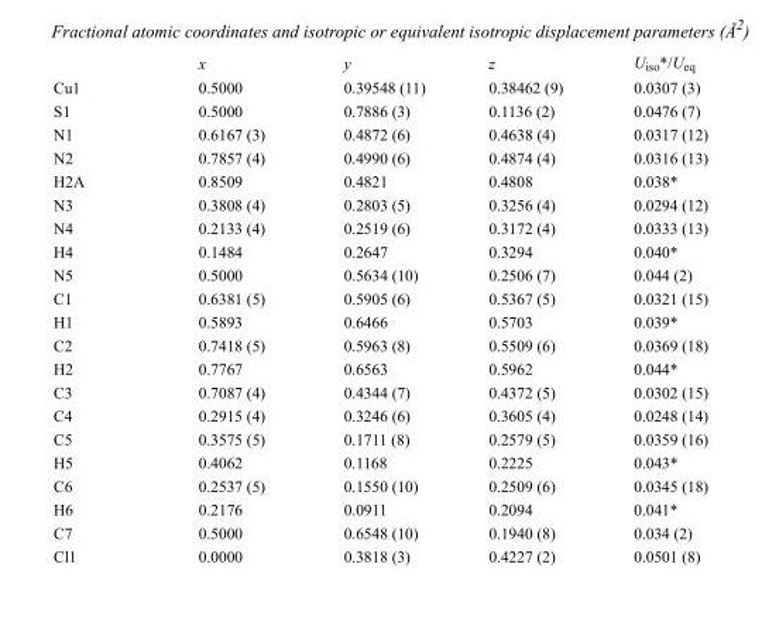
<table><thead><tr><td></td><td>x</td><td>y</td><td>z</td><td>U<sub>iso</sub>*/U<sub>eq</sub></td></tr></thead><tbody><tr><td>Cu1</td><td>0.5000</td><td>0.39548 (11)</td><td>0.38462 (9)</td><td>0.0307 (3)</td></tr><tr><td>S1</td><td>0.5000</td><td>0.7886 (3)</td><td>0.1136 (2)</td><td>0.0476 (7)</td></tr><tr><td>N1</td><td>0.6167 (3)</td><td>0.4872 (6)</td><td>0.4638 (4)</td><td>0.0317 (12)</td></tr><tr><td>N2</td><td>0.7857 (4)</td><td>0.4990 (6)</td><td>0.4874 (4)</td><td>0.0316 (13)</td></tr><tr><td>H2A</td><td>0.8509</td><td>0.4821</td><td>0.4808</td><td>0.038*</td></tr><tr><td>N3</td><td>0.3808 (4)</td><td>0.2803 (5)</td><td>0.3256 (4)</td><td>0.0294 (12)</td></tr><tr><td>N4</td><td>0.2133 (4)</td><td>0.2519 (6)</td><td>0.3172 (4)</td><td>0.0333 (13)</td></tr><tr><td>H4</td><td>0.1484</td><td>0.2647</td><td>0.3294</td><td>0.040*</td></tr><tr><td>N5</td><td>0.5000</td><td>0.5634 (10)</td><td>0.2506 (7)</td><td>0.044 (2)</td></tr><tr><td>C1</td><td>0.6381 (5)</td><td>0.5905 (6)</td><td>0.5367 (5)</td><td>0.0321 (15)</td></tr><tr><td>H1</td><td>0.5893</td><td>0.6466</td><td>0.5703</td><td>0.039*</td></tr><tr><td>C2</td><td>0.7418 (5)</td><td>0.5963 (8)</td><td>0.5509 (6)</td><td>0.0369 (18)</td></tr><tr><td>H2</td><td>0.7767</td><td>0.6563</td><td>0.5962</td><td>0.044*</td></tr><tr><td>C3</td><td>0.7087 (4)</td><td>0.4344 (7)</td><td>0.4372 (5)</td><td>0.0302 (15)</td></tr><tr><td>C4</td><td>0.2915 (4)</td><td>0.3246 (6)</td><td>0.3605 (4)</td><td>0.0248 (14)</td></tr><tr><td>C5</td><td>0.3575 (5)</td><td>0.1711 (8)</td><td>0.2579 (5)</td><td>0.0359 (16)</td></tr><tr><td>H5</td><td>0.4062</td><td>0.1168</td><td>0.2225</td><td>0.043*</td></tr><tr><td>C6</td><td>0.2537 (5)</td><td>0.1550 (10)</td><td>0.2509 (6)</td><td>0.0345 (18)</td></tr><tr><td>H6</td><td>0.2176</td><td>0.0911</td><td>0.2094</td><td>0.041*</td></tr><tr><td>C7</td><td>0.5000</td><td>0.6548 (10)</td><td>0.1940 (8)</td><td>0.034 (2)</td></tr><tr><td>Cl1</td><td>0.0000</td><td>0.3818 (3)</td><td>0.4227 (2)</td><td>0.0501 (8)</td></tr></tbody></table>